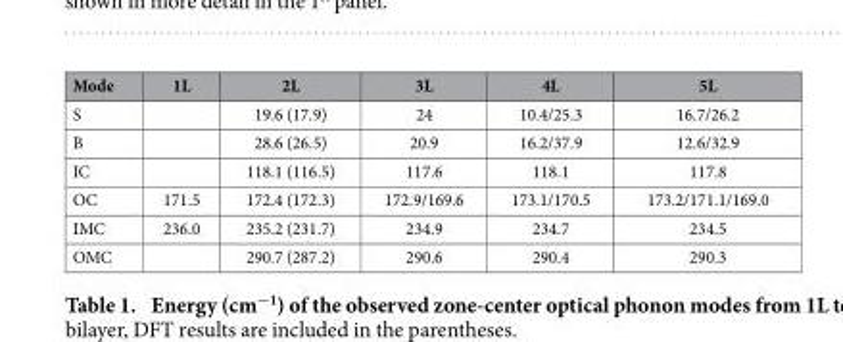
<table><thead><tr><td>Mode</td><td>1L</td><td>2L</td><td>3L</td><td>4L</td><td>5L</td></tr></thead><tbody><tr><td>S</td><td></td><td>19.6 (17.9)</td><td>24</td><td>10.4/25.3</td><td>16.7/26.2</td></tr><tr><td>B</td><td></td><td>28.6 (26.5)</td><td>20.9</td><td>16.2/37.9</td><td>12.6/32.9</td></tr><tr><td>IC</td><td></td><td>118.1 (116.5)</td><td>117.6</td><td>118.1</td><td>117.8</td></tr><tr><td>OC</td><td>171.5</td><td>172.4 (172.3)</td><td>172.9/169.6</td><td>173.1/170.5</td><td>173.2/171.1/169.0</td></tr><tr><td>IMC</td><td>236.0</td><td>235.2 (231.7)</td><td>234.9</td><td>234.7</td><td>234.5</td></tr><tr><td>OMC</td><td></td><td>290.7 (287.2)</td><td>290.6</td><td>290.4</td><td>290.3</td></tr></tbody></table>